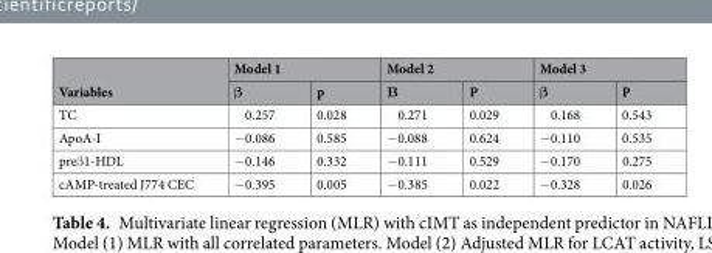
<table><thead><tr><td rowspan="2">Variables</td><td colspan="2">Model 1</td><td colspan="2">Model 2</td><td colspan="2">Model 3</td></tr><tr><td>β</td><td>p</td><td>Β</td><td>P</td><td>β</td><td>P</td></tr></thead><tbody><tr><td>TC</td><td>0.257</td><td>0.028</td><td>0.271</td><td>0.029</td><td>0.168</td><td>0.543</td></tr><tr><td>ApoA-I</td><td>−0.086</td><td>0.585</td><td>−0.088</td><td>0.624</td><td>−0.110</td><td>0.535</td></tr><tr><td>preβ1-HDL</td><td>−0.146</td><td>0.332</td><td>−0.111</td><td>0.529</td><td>−0.170</td><td>0.275</td></tr><tr><td>cAMP-treated J774 CEC</td><td>−0.395</td><td>0.005</td><td>−0.385</td><td>0.022</td><td>−0.328</td><td>0.026</td></tr></tbody></table>